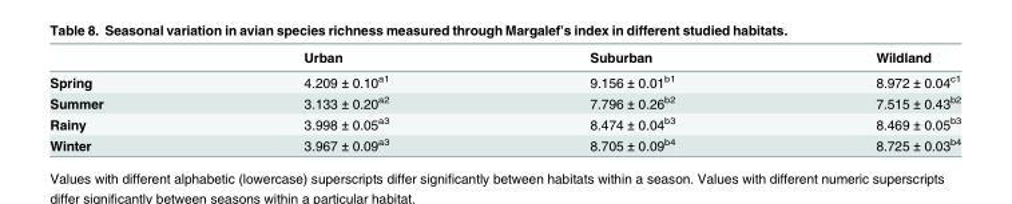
<table><thead><tr><td></td><td>Urban</td><td>Suburban</td><td>Wildland</td></tr></thead><tbody><tr><td>Spring</td><td>4.209 ± 0.10<sup>a1</sup></td><td>9.156 ± 0.01<sup>b1</sup></td><td>8.972 ± 0.04<sup>c1</sup></td></tr><tr><td>Summer</td><td>3.133 ± 0.20<sup>a2</sup></td><td>7.796 ± 0.26<sup>b2</sup></td><td>7.515 ± 0.43<sup>b2</sup></td></tr><tr><td>Rainy</td><td>3.998 ± 0.05<sup>a3</sup></td><td>8.474 ± 0.04<sup>b3</sup></td><td>8.469 ± 0.05<sup>b3</sup></td></tr><tr><td>Winter</td><td>3.967 ± 0.09<sup>a3</sup></td><td>8.705 ± 0.09<sup>b4</sup></td><td>8.725 ± 0.03<sup>b4</sup></td></tr></tbody></table>